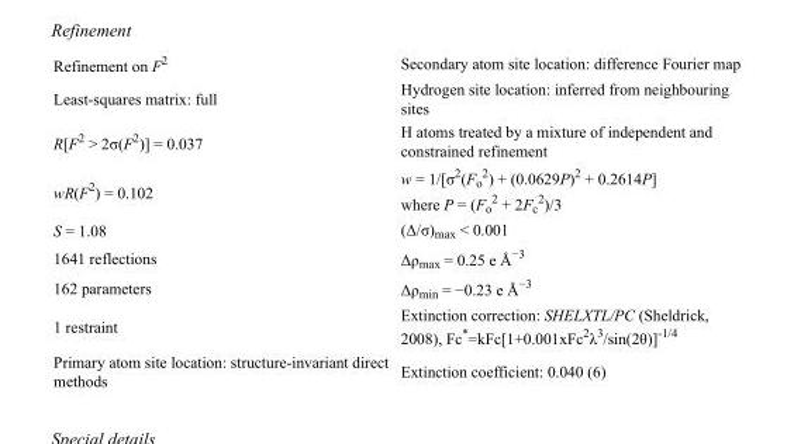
<table><tbody><tr><td>Refinement on F<sup>2</sup></td><td>Secondary atom site location: difference Fourier map</td></tr><tr><td>Least-squares matrix: full</td><td>Hydrogen site location: inferred from neighbouring sites</td></tr><tr><td>R[F<sup>2</sup> &gt; 2σ(F<sup>2</sup>)] = 0.037</td><td>H atoms treated by a mixture of independent and constrained refinement</td></tr><tr><td>wR(F<sup>2</sup>) = 0.102</td><td>w = 1/[σ<sup>2</sup>(F<sub>o</sub> <sup>2</sup>) + (0.0629P)<sup>2</sup> + 0.2614P] where P = (F<sub>o</sub> <sup>2</sup> + 2F<sub>c</sub> <sup>2</sup>)/3</td></tr><tr><td>S = 1.08</td><td>(Δ/σ)<sub>max</sub> &lt; 0.001</td></tr><tr><td>1641 reflections</td><td>Δρ<sub>max</sub> = 0.25 e Å<sup>−3</sup></td></tr><tr><td>162 parameters</td><td>Δρ<sub>min</sub> = −0.23 e Å<sup>−3</sup></td></tr><tr><td>1 restraint</td><td>Extinction correction: SHELXTL/PC (Sheldrick, 2008), Fc*=kFc[1+0.001xFc<sup>2</sup>λ<sup>3</sup>/sin(2θ)]<sup>-1/4</sup></td></tr><tr><td>Primary atom site location: structure-invariant direct methods</td><td>Extinction coefficient: 0.040 (6)</td></tr></tbody></table>